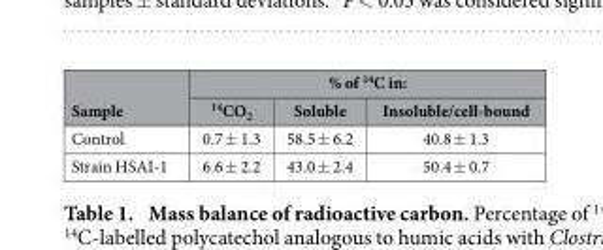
<table><thead><tr><td rowspan="2">Sample</td><td colspan="3">% of <sup>14</sup>C in:</td></tr><tr><td><sup>14</sup>CO<sub>2</sub></td><td>Soluble</td><td>Insoluble/cell-bound</td></tr></thead><tbody><tr><td>Control</td><td>0.7 ± 1.3</td><td>58.5 ± 6.2</td><td>40.8 ± 1.3</td></tr><tr><td>Strain HSAI-1</td><td>6.6 ± 2.2</td><td>43.0 ± 2.4</td><td>50.4 ± 0.7</td></tr></tbody></table>